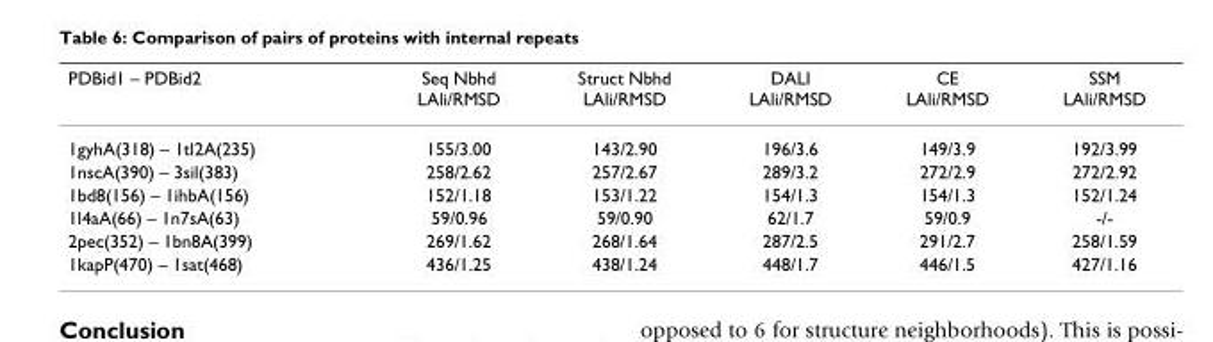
<table><thead><tr><td>PDBid1 – PDBid2</td><td>Seq Nbhd LAli/RMSD</td><td>Struct Nbhd LAli/RMSD</td><td>DALI LAli/RMSD</td><td>CE LAli/RMSD</td><td>SSM LAli/RMSD</td></tr></thead><tbody><tr><td>1gyhA(318) – 1tl2A(235)</td><td>155/3.00</td><td>143/2.90</td><td>196/3.6</td><td>149/3.9</td><td>192/3.99</td></tr><tr><td>1nscA(390) – 3sil(383)</td><td>258/2.62</td><td>257/2.67</td><td>289/3.2</td><td>272/2.9</td><td>272/2.92</td></tr><tr><td>1bd8(156) – 1ihbA(156)</td><td>152/1.18</td><td>153/1.22</td><td>154/1.3</td><td>154/1.3</td><td>152/1.24</td></tr><tr><td>1l4aA(66) – 1n7sA(63)</td><td>59/0.96</td><td>59/0.90</td><td>62/1.7</td><td>59/0.9</td><td>-/-</td></tr><tr><td>2pec(352) – 1bn8A(399)</td><td>269/1.62</td><td>268/1.64</td><td>287/2.5</td><td>291/2.7</td><td>258/1.59</td></tr><tr><td>1kapP(470) – 1sat(468)</td><td>436/1.25</td><td>438/1.24</td><td>448/1.7</td><td>446/1.5</td><td>427/1.16</td></tr></tbody></table>